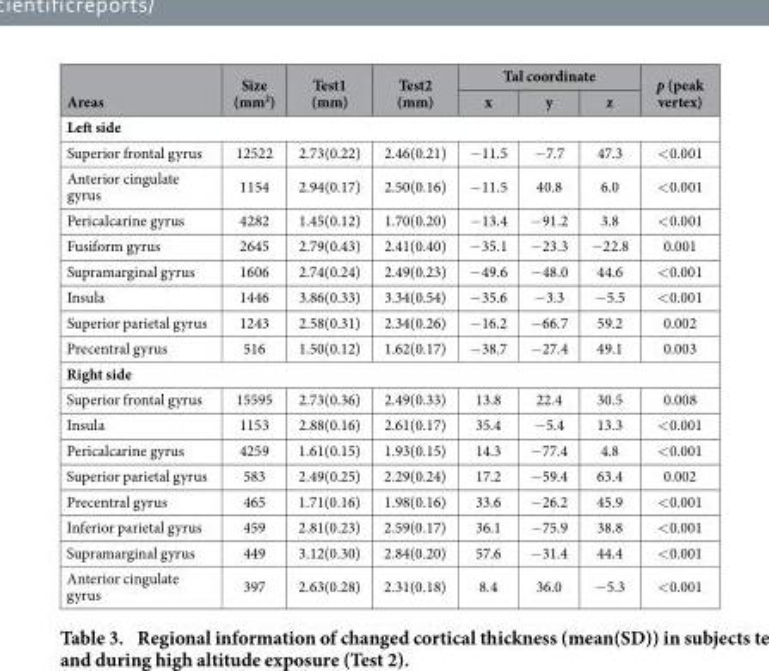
<table><thead><tr><td rowspan="2">Areas</td><td rowspan="2">Size (mm<sup>2</sup>)</td><td rowspan="2">Test1 (mm)</td><td rowspan="2">Test2 (mm)</td><td colspan="3">Tal coordinate</td><td rowspan="2">p (peak vertex)</td></tr><tr><td>x</td><td>y</td><td>z</td></tr></thead><tbody><tr><td colspan="8">Left side</td></tr><tr><td>Superior frontal gyrus</td><td>12522</td><td>2.73(0.22)</td><td>2.46(0.21)</td><td>− 11.5</td><td>− 7.7</td><td>47.3</td><td>&lt; 0.001</td></tr><tr><td>Anterior cingulate gyrus</td><td>1154</td><td>2.94(0.17)</td><td>2.50(0.16)</td><td>− 11.5</td><td>40.8</td><td>6.0</td><td>&lt; 0.001</td></tr><tr><td>Pericalcarine gyrus</td><td>4282</td><td>1.45(0.12)</td><td>1.70(0.20)</td><td>− 13.4</td><td>− 91.2</td><td>3.8</td><td>&lt; 0.001</td></tr><tr><td>Fusiform gyrus</td><td>2645</td><td>2.79(0.43)</td><td>2.41(0.40)</td><td>− 35.1</td><td>− 23.3</td><td>− 22.8</td><td>0.001</td></tr><tr><td>Supramarginal gyrus</td><td>1606</td><td>2.74(0.24)</td><td>2.49(0.23)</td><td>− 49.6</td><td>− 48.0</td><td>44.6</td><td>&lt; 0.001</td></tr><tr><td>Insula</td><td>1446</td><td>3.86(0.33)</td><td>3.34(0.54)</td><td>− 35.6</td><td>− 3.3</td><td>− 5.5</td><td>&lt; 0.001</td></tr><tr><td>Superior parietal gyrus</td><td>1243</td><td>2.58(0.31)</td><td>2.34(0.26)</td><td>− 16.2</td><td>− 66.7</td><td>59.2</td><td>0.002</td></tr><tr><td>Precentral gyrus</td><td>516</td><td>1.50(0.12)</td><td>1.62(0.17)</td><td>− 38.7</td><td>− 27.4</td><td>49.1</td><td>0.003</td></tr><tr><td colspan="8">Right side</td></tr><tr><td>Superior frontal gyrus</td><td>15595</td><td>2.73(0.36)</td><td>2.49(0.33)</td><td>13.8</td><td>22.4</td><td>30.5</td><td>0.008</td></tr><tr><td>Insula</td><td>1153</td><td>2.88(0.16)</td><td>2.61(0.17)</td><td>35.4</td><td>− 5.4</td><td>13.3</td><td>&lt; 0.001</td></tr><tr><td>Pericalcarine gyrus</td><td>4259</td><td>1.61(0.15)</td><td>1.93(0.15)</td><td>14.3</td><td>− 77.4</td><td>4.8</td><td>&lt; 0.001</td></tr><tr><td>Superior parietal gyrus</td><td>583</td><td>2.49(0.25)</td><td>2.29(0.24)</td><td>17.2</td><td>− 59.4</td><td>63.4</td><td>0.002</td></tr><tr><td>Precentral gyrus</td><td>465</td><td>1.71(0.16)</td><td>1.98(0.16)</td><td>33.6</td><td>− 26.2</td><td>45.9</td><td>&lt; 0.001</td></tr><tr><td>Inferior parietal gyrus</td><td>459</td><td>2.81(0.23)</td><td>2.59(0.17)</td><td>36.1</td><td>− 75.9</td><td>38.8</td><td>&lt; 0.001</td></tr><tr><td>Supramarginal gyrus</td><td>449</td><td>3.12(0.30)</td><td>2.84(0.20)</td><td>57.6</td><td>− 31.4</td><td>44.4</td><td>&lt; 0.001</td></tr><tr><td>Anterior cingulate gyrus</td><td>397</td><td>2.63(0.28)</td><td>2.31(0.18)</td><td>8.4</td><td>36.0</td><td>− 5.3</td><td>&lt; 0.001</td></tr></tbody></table>